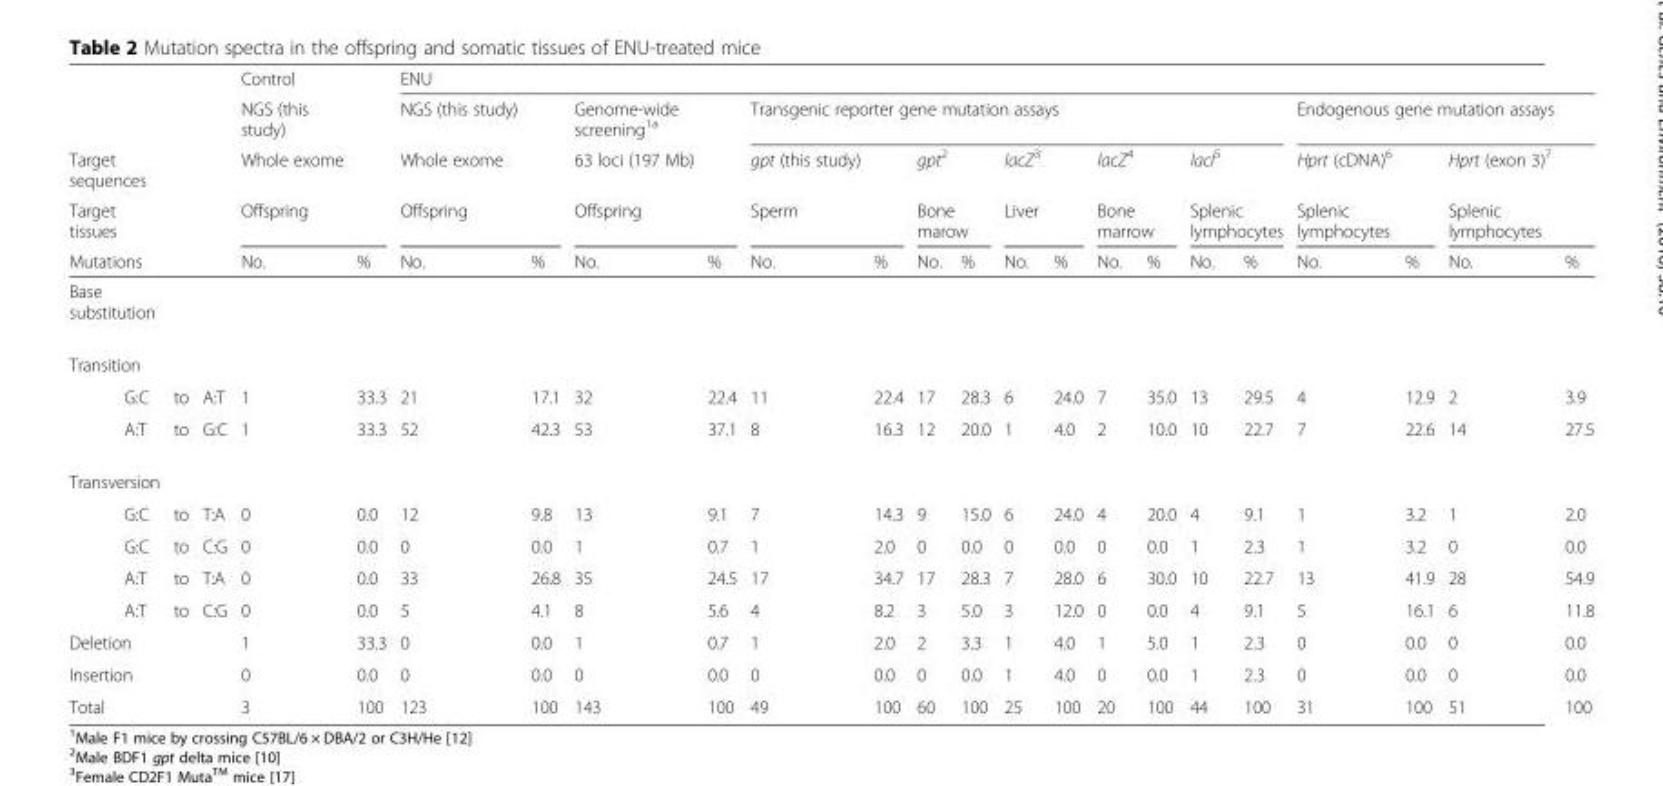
<table><thead><tr><td rowspan="5">Target sequences Target tissues Mutations</td><td rowspan="5"></td><td rowspan="5"></td><td rowspan="3">Control NGS (this study) Whole exome</td><td rowspan="3"></td><td colspan="18">ENU</td></tr><tr><td rowspan="2">NGS (this study) Whole exome</td><td rowspan="2"></td><td rowspan="2">Genome-wide screening<sup>1a</sup> 63 loci (197 Mb)</td><td rowspan="2"></td><td colspan="10">Transgenic reporter gene mutation assays</td><td colspan="4">Endogenous gene mutation assays</td></tr><tr><td>gpt (this study)</td><td></td><td>gpt<sup>2</sup></td><td></td><td>lacZ<sup>3</sup></td><td></td><td>lacZ<sup>4</sup></td><td></td><td>lacI<sup>5</sup></td><td></td><td>Hprt (cDNA)<sup>6</sup></td><td></td><td>Hprt (exon 3)<sup>7</sup></td><td></td></tr><tr><td colspan="2">Offspring</td><td colspan="2">Offspring</td><td colspan="2">Offspring</td><td colspan="2">Sperm</td><td colspan="2">Bone marow</td><td colspan="2">Liver</td><td colspan="2">Bone marrow</td><td colspan="2">Splenic lymphocytes</td><td colspan="2">Splenic lymphocytes</td><td colspan="2">Splenic lymphocytes</td></tr><tr><td>No.</td><td>%</td><td>No.</td><td>%</td><td>No.</td><td>%</td><td>No.</td><td>%</td><td>No.</td><td>%</td><td>No.</td><td>%</td><td>No.</td><td>%</td><td>No.</td><td>%</td><td>No.</td><td>%</td><td>No.</td><td>%</td></tr></thead><tbody><tr><td colspan="23">Base substitution</td></tr><tr><td colspan="23">Transition</td></tr><tr><td>G:C</td><td>to</td><td>A:T</td><td>1</td><td>33.3</td><td>21</td><td>17.1</td><td>32</td><td>22.4</td><td>11</td><td>22.4</td><td>17</td><td>28.3</td><td>6</td><td>24.0</td><td>7</td><td>35.0</td><td>13</td><td>29.5</td><td>4</td><td>12.9</td><td>2</td><td>3.9</td></tr><tr><td>A:T</td><td>to</td><td>G:C</td><td>1</td><td>33.3</td><td>52</td><td>42.3</td><td>53</td><td>37.1</td><td>8</td><td>16.3</td><td>12</td><td>20.0</td><td>1</td><td>4.0</td><td>2</td><td>10.0</td><td>10</td><td>22.7</td><td>7</td><td>22.6</td><td>14</td><td>27.5</td></tr><tr><td colspan="23">Transversion</td></tr><tr><td>G:C</td><td>to</td><td>T:A</td><td>0</td><td>0.0</td><td>12</td><td>9.8</td><td>13</td><td>9.1</td><td>7</td><td>14.3</td><td>9</td><td>15.0</td><td>6</td><td>24.0</td><td>4</td><td>20.0</td><td>4</td><td>9.1</td><td>1</td><td>3.2</td><td>1</td><td>2.0</td></tr><tr><td>G:C</td><td>to</td><td>C:G</td><td>0</td><td>0.0</td><td>0</td><td>0.0</td><td>1</td><td>0.7</td><td>1</td><td>2.0</td><td>0</td><td>0.0</td><td>0</td><td>0.0</td><td>0</td><td>0.0</td><td>1</td><td>2.3</td><td>1</td><td>3.2</td><td>0</td><td>0.0</td></tr><tr><td>A:T</td><td>to</td><td>T:A</td><td>0</td><td>0.0</td><td>33</td><td>26.8</td><td>35</td><td>24.5</td><td>17</td><td>34.7</td><td>17</td><td>28.3</td><td>7</td><td>28.0</td><td>6</td><td>30.0</td><td>10</td><td>22.7</td><td>13</td><td>41.9</td><td>28</td><td>54.9</td></tr><tr><td>A:T</td><td>to</td><td>C:G</td><td>0</td><td>0.0</td><td>5</td><td>4.1</td><td>8</td><td>5.6</td><td>4</td><td>8.2</td><td>3</td><td>5.0</td><td>3</td><td>12.0</td><td>0</td><td>0.0</td><td>4</td><td>9.1</td><td>5</td><td>16.1</td><td>6</td><td>11.8</td></tr><tr><td>Deletion</td><td></td><td></td><td>1</td><td>33.3</td><td>0</td><td>0.0</td><td>1</td><td>0.7</td><td>1</td><td>2.0</td><td>2</td><td>3.3</td><td>1</td><td>4.0</td><td>1</td><td>5.0</td><td>1</td><td>2.3</td><td>0</td><td>0.0</td><td>0</td><td>0.0</td></tr><tr><td>Insertion</td><td></td><td></td><td>0</td><td>0.0</td><td>0</td><td>0.0</td><td>0</td><td>0.0</td><td>0</td><td>0.0</td><td>0</td><td>0.0</td><td>1</td><td>4.0</td><td>0</td><td>0.0</td><td>1</td><td>2.3</td><td>0</td><td>0.0</td><td>0</td><td>0.0</td></tr><tr><td>Total</td><td></td><td></td><td>3</td><td>100</td><td>123</td><td>100</td><td>143</td><td>100</td><td>49</td><td>100</td><td>60</td><td>100</td><td>25</td><td>100</td><td>20</td><td>100</td><td>44</td><td>100</td><td>31</td><td>100</td><td>51</td><td>100</td></tr></tbody></table>